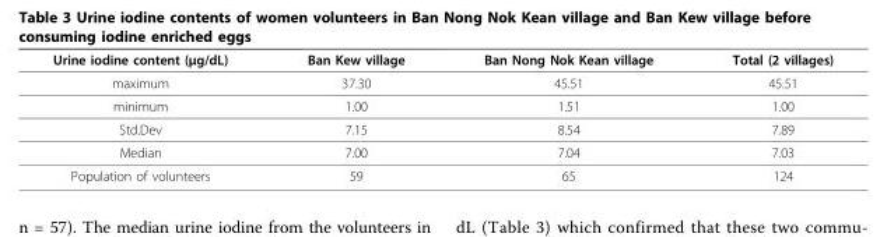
<table><thead><tr><td>Urine iodine content (μg/dL)</td><td>Ban Kew village</td><td>Ban Nong Nok Kean village</td><td>Total (2 villages)</td></tr></thead><tbody><tr><td>maximum</td><td>37.30</td><td>45.51</td><td>45.51</td></tr><tr><td>minimum</td><td>1.00</td><td>1.51</td><td>1.00</td></tr><tr><td>Std.Dev</td><td>7.15</td><td>8.54</td><td>7.89</td></tr><tr><td>Median</td><td>7.00</td><td>7.04</td><td>7.03</td></tr><tr><td>Population of volunteers</td><td>59</td><td>65</td><td>124</td></tr></tbody></table>